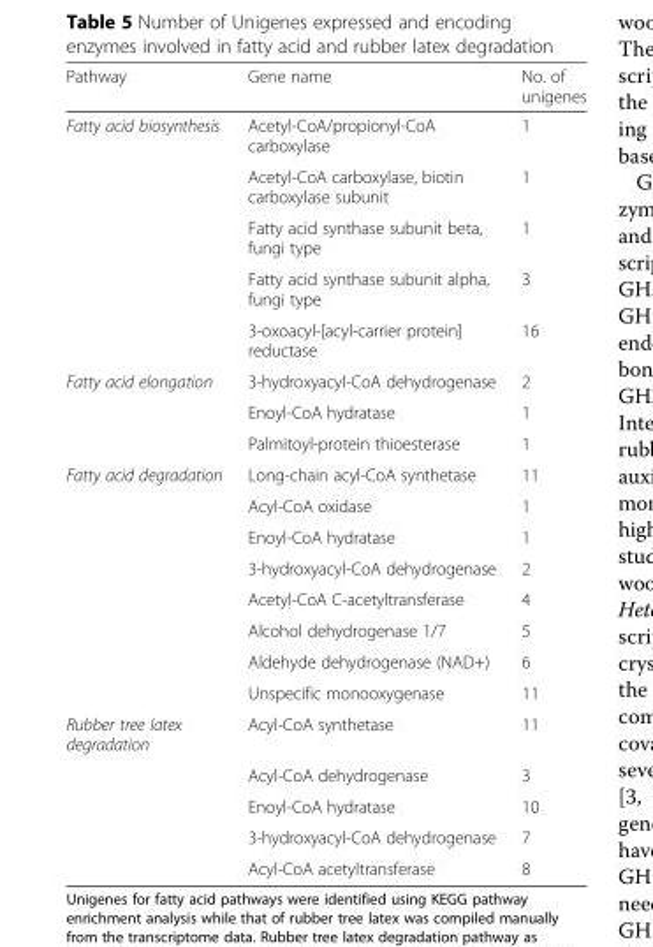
<table><thead><tr><td>Pathway</td><td>Gene name</td><td>No. of unigenes</td></tr></thead><tbody><tr><td rowspan="5">Fatty acid biosynthesis</td><td>Acetyl-CoA/propionyl-CoA carboxylase</td><td>1</td></tr><tr><td>Acetyl-CoA carboxylase, biotin carboxylase subunit</td><td>1</td></tr><tr><td>Fatty acid synthase subunit beta, fungi type</td><td>1</td></tr><tr><td>Fatty acid synthase subunit alpha, fungi type</td><td>3</td></tr><tr><td>3-oxoacyl-[acyl-carrier protein] reductase</td><td>16</td></tr><tr><td rowspan="3">Fatty acid elongation</td><td>3-hydroxyacyl-CoA dehydrogenase</td><td>2</td></tr><tr><td>Enoyl-CoA hydratase</td><td>1</td></tr><tr><td>Palmitoyl-protein thioesterase</td><td>1</td></tr><tr><td rowspan="8">Fatty acid degradation</td><td>Long-chain acyl-CoA synthetase</td><td>11</td></tr><tr><td>Acyl-CoA oxidase</td><td>1</td></tr><tr><td>Enoyl-CoA hydratase</td><td>1</td></tr><tr><td>3-hydroxyacyl-CoA dehydrogenase</td><td>2</td></tr><tr><td>Acetyl-CoA C-acetyltransferase</td><td>4</td></tr><tr><td>Alcohol dehydrogenase 1/7</td><td>5</td></tr><tr><td>Aldehyde dehydrogenase (NAD+)</td><td>6</td></tr><tr><td>Unspecific monooxygenase</td><td>11</td></tr><tr><td rowspan="5">Rubber tree latex degradation</td><td>Acyl-CoA synthetase</td><td>11</td></tr><tr><td>Acyl-CoA dehydrogenase</td><td>3</td></tr><tr><td>Enoyl-CoA hydratase</td><td>10</td></tr><tr><td>3-hydroxyacyl-CoA dehydrogenase</td><td>7</td></tr><tr><td>Acyl-CoA acetyltransferase</td><td>8</td></tr></tbody></table>